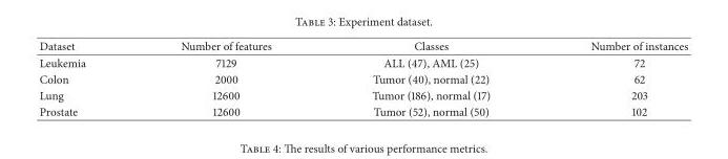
<table><thead><tr><td>Dataset</td><td>Number of features</td><td>Classes</td><td>Number of instances</td></tr></thead><tbody><tr><td>Leukemia</td><td>7129</td><td>ALL (47), AML (25)</td><td>72</td></tr><tr><td>Colon</td><td>2000</td><td>Tumor (40), normal (22)</td><td>62</td></tr><tr><td>Lung</td><td>12600</td><td>Tumor (186), normal (17)</td><td>203</td></tr><tr><td>Prostate</td><td>12600</td><td>Tumor (52), normal (50)</td><td>102</td></tr></tbody></table>